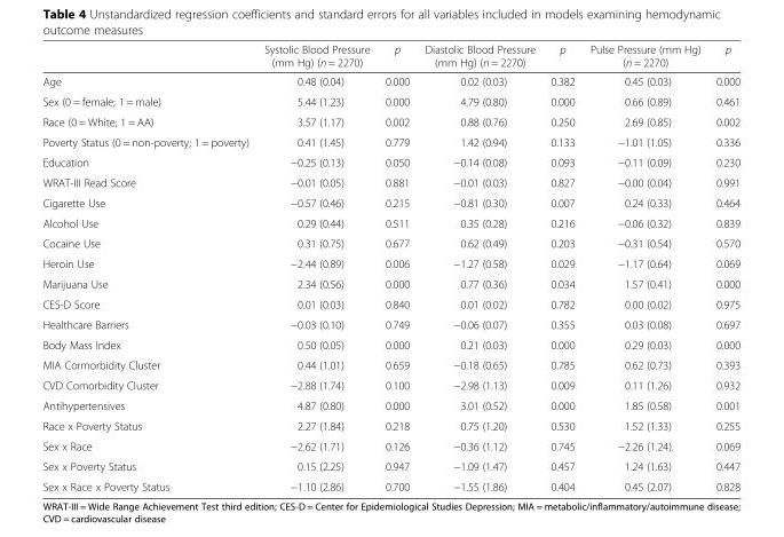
<table><thead><tr><td></td><td>Systolic Blood Pressure (mm Hg) (n = 2270)</td><td>p</td><td>Diastolic Blood Pressure (mm Hg) (n = 2270)</td><td>p</td><td>Pulse Pressure (mm Hg) (n = 2270)</td><td>p</td></tr></thead><tbody><tr><td>Age</td><td>0.48 (0.04)</td><td>0.000</td><td>0.02 (0.03)</td><td>0.382</td><td>0.45 (0.03)</td><td>0.000</td></tr><tr><td>Sex (0 = female; 1 = male)</td><td>5.44 (1.23)</td><td>0.000</td><td>4.79 (0.80)</td><td>0.000</td><td>0.66 (0.89)</td><td>0.461</td></tr><tr><td>Race (0 = White; 1 = AA)</td><td>3.57 (1.17)</td><td>0.002</td><td>0.88 (0.76)</td><td>0.250</td><td>2.69 (0.85)</td><td>0.002</td></tr><tr><td>Poverty Status (0 = non-poverty; 1 = poverty)</td><td>0.41 (1.45)</td><td>0.779</td><td>1.42 (0.94)</td><td>0.133</td><td>−1.01 (1.05)</td><td>0.336</td></tr><tr><td>Education</td><td>−0.25 (0.13)</td><td>0.050</td><td>−0.14 (0.08)</td><td>0.093</td><td>−0.11 (0.09)</td><td>0.230</td></tr><tr><td>WRAT-III Read Score</td><td>−0.01 (0.05)</td><td>0.881</td><td>−0.01 (0.03)</td><td>0.827</td><td>−0.00 (0.04)</td><td>0.991</td></tr><tr><td>Cigarette Use</td><td>−0.57 (0.46)</td><td>0.215</td><td>−0.81 (0.30)</td><td>0.007</td><td>0.24 (0.33)</td><td>0.464</td></tr><tr><td>Alcohol Use</td><td>0.29 (0.44)</td><td>0.511</td><td>0.35 (0.28)</td><td>0.216</td><td>−0.06 (0.32)</td><td>0.839</td></tr><tr><td>Cocaine Use</td><td>0.31 (0.75)</td><td>0.677</td><td>0.62 (0.49)</td><td>0.203</td><td>−0.31 (0.54)</td><td>0.570</td></tr><tr><td>Heroin Use</td><td>−2.44 (0.89)</td><td>0.006</td><td>−1.27 (0.58)</td><td>0.029</td><td>−1.17 (0.64)</td><td>0.069</td></tr><tr><td>Marijuana Use</td><td>2.34 (0.56)</td><td>0.000</td><td>0.77 (0.36)</td><td>0.034</td><td>1.57 (0.41)</td><td>0.000</td></tr><tr><td>CES-D Score</td><td>0.01 (0.03)</td><td>0.840</td><td>0.01 (0.02)</td><td>0.782</td><td>0.00 (0.02)</td><td>0.975</td></tr><tr><td>Healthcare Barriers</td><td>−0.03 (0.10)</td><td>0.749</td><td>−0.06 (0.07)</td><td>0.355</td><td>0.03 (0.08)</td><td>0.697</td></tr><tr><td>Body Mass Index</td><td>0.50 (0.05)</td><td>0.000</td><td>0.21 (0.03)</td><td>0.000</td><td>0.29 (0.03)</td><td>0.000</td></tr><tr><td>MIA Cormorbidity Cluster</td><td>0.44 (1.01)</td><td>0.659</td><td>−0.18 (0.65)</td><td>0.785</td><td>0.62 (0.73)</td><td>0.393</td></tr><tr><td>CVD Comorbidity Cluster</td><td>−2.88 (1.74)</td><td>0.100</td><td>−2.98 (1.13)</td><td>0.009</td><td>0.11 (1.26)</td><td>0.932</td></tr><tr><td>Antihypertensives</td><td>4.87 (0.80)</td><td>0.000</td><td>3.01 (0.52)</td><td>0.000</td><td>1.85 (0.58)</td><td>0.001</td></tr><tr><td>Race x Poverty Status</td><td>2.27 (1.84)</td><td>0.218</td><td>0.75 (1.20)</td><td>0.530</td><td>1.52 (1.33)</td><td>0.255</td></tr><tr><td>Sex x Race</td><td>−2.62 (1.71)</td><td>0.126</td><td>−0.36 (1.12)</td><td>0.745</td><td>−2.26 (1.24).</td><td>0.069</td></tr><tr><td>Sex x Poverty Status</td><td>0.15 (2.25)</td><td>0.947</td><td>−1.09 (1.47)</td><td>0.457</td><td>1.24 (1.63)</td><td>0.447</td></tr><tr><td>Sex x Race x Poverty Status</td><td>−1.10 (2.86)</td><td>0.700</td><td>−1.55 (1.86)</td><td>0.404</td><td>0.45 (2.07)</td><td>0.828</td></tr></tbody></table>